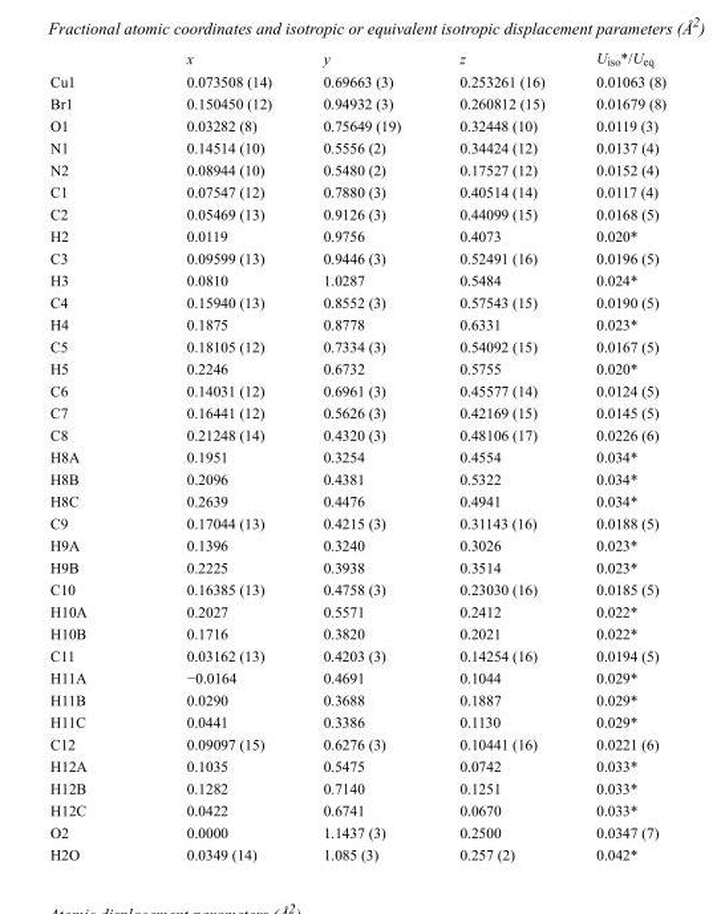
<table><thead><tr><td></td><td>x</td><td>y</td><td>z</td><td>U<sub>iso</sub>*/U<sub>eq</sub></td></tr></thead><tbody><tr><td>Cu1</td><td>0.073508 (14)</td><td>0.69663 (3)</td><td>0.253261 (16)</td><td>0.01063 (8)</td></tr><tr><td>Br1</td><td>0.150450 (12)</td><td>0.94932 (3)</td><td>0.260812 (15)</td><td>0.01679 (8)</td></tr><tr><td>O1</td><td>0.03282 (8)</td><td>0.75649 (19)</td><td>0.32448 (10)</td><td>0.0119 (3)</td></tr><tr><td>N1</td><td>0.14514 (10)</td><td>0.5556 (2)</td><td>0.34424 (12)</td><td>0.0137 (4)</td></tr><tr><td>N2</td><td>0.08944 (10)</td><td>0.5480 (2)</td><td>0.17527 (12)</td><td>0.0152 (4)</td></tr><tr><td>C1</td><td>0.07547 (12)</td><td>0.7880 (3)</td><td>0.40514 (14)</td><td>0.0117 (4)</td></tr><tr><td>C2</td><td>0.05469 (13)</td><td>0.9126 (3)</td><td>0.44099 (15)</td><td>0.0168 (5)</td></tr><tr><td>H2</td><td>0.0119</td><td>0.9756</td><td>0.4073</td><td>0.020*</td></tr><tr><td>C3</td><td>0.09599 (13)</td><td>0.9446 (3)</td><td>0.52491 (16)</td><td>0.0196 (5)</td></tr><tr><td>H3</td><td>0.0810</td><td>1.0287</td><td>0.5484</td><td>0.024*</td></tr><tr><td>C4</td><td>0.15940 (13)</td><td>0.8552 (3)</td><td>0.57543 (15)</td><td>0.0190 (5)</td></tr><tr><td>H4</td><td>0.1875</td><td>0.8778</td><td>0.6331</td><td>0.023*</td></tr><tr><td>C5</td><td>0.18105 (12)</td><td>0.7334 (3)</td><td>0.54092 (15)</td><td>0.0167 (5)</td></tr><tr><td>H5</td><td>0.2246</td><td>0.6732</td><td>0.5755</td><td>0.020*</td></tr><tr><td>C6</td><td>0.14031 (12)</td><td>0.6961 (3)</td><td>0.45577 (14)</td><td>0.0124 (5)</td></tr><tr><td>C7</td><td>0.16441 (12)</td><td>0.5626 (3)</td><td>0.42169 (15)</td><td>0.0145 (5)</td></tr><tr><td>C8</td><td>0.21248 (14)</td><td>0.4320 (3)</td><td>0.48106 (17)</td><td>0.0226 (6)</td></tr><tr><td>H8A</td><td>0.1951</td><td>0.3254</td><td>0.4554</td><td>0.034*</td></tr><tr><td>H8B</td><td>0.2096</td><td>0.4381</td><td>0.5322</td><td>0.034*</td></tr><tr><td>H8C</td><td>0.2639</td><td>0.4476</td><td>0.4941</td><td>0.034*</td></tr><tr><td>C9</td><td>0.17044 (13)</td><td>0.4215 (3)</td><td>0.31143 (16)</td><td>0.0188 (5)</td></tr><tr><td>H9A</td><td>0.1396</td><td>0.3240</td><td>0.3026</td><td>0.023*</td></tr><tr><td>H9B</td><td>0.2225</td><td>0.3938</td><td>0.3514</td><td>0.023*</td></tr><tr><td>C10</td><td>0.16385 (13)</td><td>0.4758 (3)</td><td>0.23030 (16)</td><td>0.0185 (5)</td></tr><tr><td>H10A</td><td>0.2027</td><td>0.5571</td><td>0.2412</td><td>0.022*</td></tr><tr><td>H10B</td><td>0.1716</td><td>0.3820</td><td>0.2021</td><td>0.022*</td></tr><tr><td>C11</td><td>0.03162 (13)</td><td>0.4203 (3)</td><td>0.14254 (16)</td><td>0.0194 (5)</td></tr><tr><td>H11A</td><td>−0.0164</td><td>0.4691</td><td>0.1044</td><td>0.029*</td></tr><tr><td>H11B</td><td>0.0290</td><td>0.3688</td><td>0.1887</td><td>0.029*</td></tr><tr><td>H11C</td><td>0.0441</td><td>0.3386</td><td>0.1130</td><td>0.029*</td></tr><tr><td>C12</td><td>0.09097 (15)</td><td>0.6276 (3)</td><td>0.10441 (16)</td><td>0.0221 (6)</td></tr><tr><td>H12A</td><td>0.1035</td><td>0.5475</td><td>0.0742</td><td>0.033*</td></tr><tr><td>H12B</td><td>0.1282</td><td>0.7140</td><td>0.1251</td><td>0.033*</td></tr><tr><td>H12C</td><td>0.0422</td><td>0.6741</td><td>0.0670</td><td>0.033*</td></tr><tr><td>O2</td><td>0.0000</td><td>1.1437 (3)</td><td>0.2500</td><td>0.0347 (7)</td></tr><tr><td>H2O</td><td>0.0349 (14)</td><td>1.085 (3)</td><td>0.257 (2)</td><td>0.042*</td></tr></tbody></table>